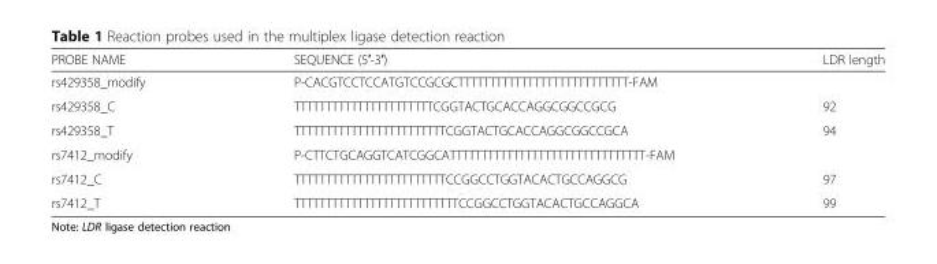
<table><thead><tr><td>PROBE NAME</td><td>SEQUENCE (5′-3′)</td><td>LDR length</td></tr></thead><tbody><tr><td>rs429358_modify</td><td>P-CACGTCCTCCATGTCCGCGCTTTTTTTTTTTTTTTTTTTTTTTTTTT-FAM</td><td></td></tr><tr><td>rs429358_C</td><td>TTTTTTTTTTTTTTTTTTTTTTCGGTACTGCACCAGGCGGCCGCG</td><td>92</td></tr><tr><td>rs429358_T</td><td>TTTTTTTTTTTTTTTTTTTTTTTTCGGTACTGCACCAGGCGGCCGCA</td><td>94</td></tr><tr><td>rs7412_modify</td><td>P-CTTCTGCAGGTCATCGGCATTTTTTTTTTTTTTTTTTTTTTTTTTTTTTT-FAM</td><td></td></tr><tr><td>rs7412_C</td><td>TTTTTTTTTTTTTTTTTTTTTTTTCCGGCCTGGTACACTGCCAGGCG</td><td>97</td></tr><tr><td>rs7412_T</td><td>TTTTTTTTTTTTTTTTTTTTTTTTTTCCGGCCTGGTACACTGCCAGGCA</td><td>99</td></tr></tbody></table>